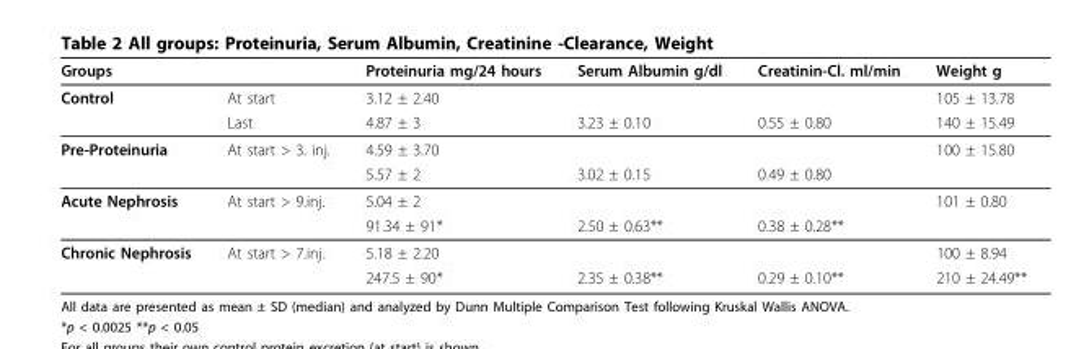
<table><thead><tr><td>Groups</td><td></td><td>Proteinuria mg/24 hours</td><td>Serum Albumin g/dl</td><td>Creatinin-Cl. ml/min</td><td>Weight g</td></tr></thead><tbody><tr><td rowspan="2">Control</td><td>At start</td><td>3.12 ± 2.40</td><td></td><td></td><td>105 ± 13.78</td></tr><tr><td>Last</td><td>4.87 ± 3</td><td>3.23 ± 0.10</td><td>0.55 ± 0.80</td><td>140 ± 15.49</td></tr><tr><td rowspan="2">Pre-Proteinuria</td><td>At start &gt; 3. inj.</td><td>4.59 ± 3.70</td><td></td><td></td><td>100 ± 15.80</td></tr><tr><td></td><td>5.57 ± 2</td><td>3.02 ± 0.15</td><td>0.49 ± 0.80</td><td></td></tr><tr><td rowspan="2">Acute Nephrosis</td><td>At start &gt; 9.inj.</td><td>5.04 ± 2</td><td></td><td></td><td>101 ± 0.80</td></tr><tr><td></td><td>91.34 ± 91*</td><td>2.50 ± 0.63**</td><td>0.38 ± 0.28**</td><td></td></tr><tr><td rowspan="2">Chronic Nephrosis</td><td>At start &gt; 7.inj.</td><td>5.18 ± 2.20</td><td></td><td></td><td>100 ± 8.94</td></tr><tr><td></td><td>247.5 ± 90*</td><td>2.35 ± 0.38**</td><td>0.29 ± 0.10**</td><td>210 ± 24.49**</td></tr></tbody></table>